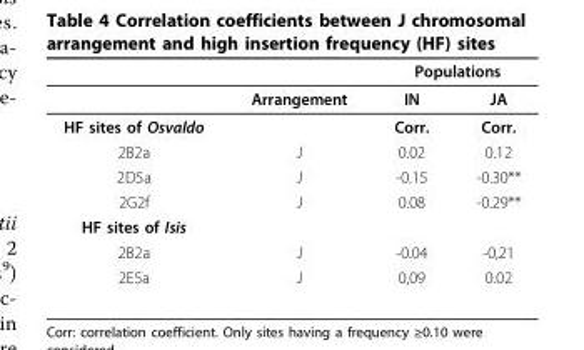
<table><thead><tr><td rowspan="2"></td><td rowspan="2">Arrangement</td><td colspan="2">Populations</td></tr><tr><td>IN</td><td>JA</td></tr></thead><tbody><tr><td>HF sites of Osvaldo</td><td></td><td>Corr.</td><td>Corr.</td></tr><tr><td>2B2a</td><td>J</td><td>0.02</td><td>0.12</td></tr><tr><td>2D5a</td><td>J</td><td>-0.15</td><td>-0.30**</td></tr><tr><td>2G2f</td><td>J</td><td>0.08</td><td>-0.29**</td></tr><tr><td colspan="4">HF sites of Isis</td></tr><tr><td>2B2a</td><td>J</td><td>-0.04</td><td>-0,21</td></tr><tr><td>2E5a</td><td>J</td><td>0,09</td><td>0.02</td></tr></tbody></table>